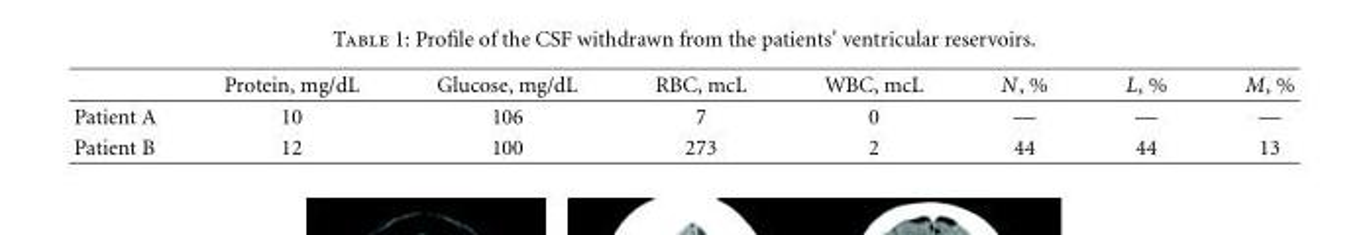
<table><thead><tr><td></td><td>Protein, mg/dL</td><td>Glucose, mg/dL</td><td>RBC, mcL</td><td>WBC, mcL</td><td>N, %</td><td>L, %</td><td>M, %</td></tr></thead><tbody><tr><td>Patient A</td><td>10</td><td>106</td><td>7</td><td>0</td><td>—</td><td>—</td><td>—</td></tr><tr><td>Patient B</td><td>12</td><td>100</td><td>273</td><td>2</td><td>44</td><td>44</td><td>13</td></tr></tbody></table>